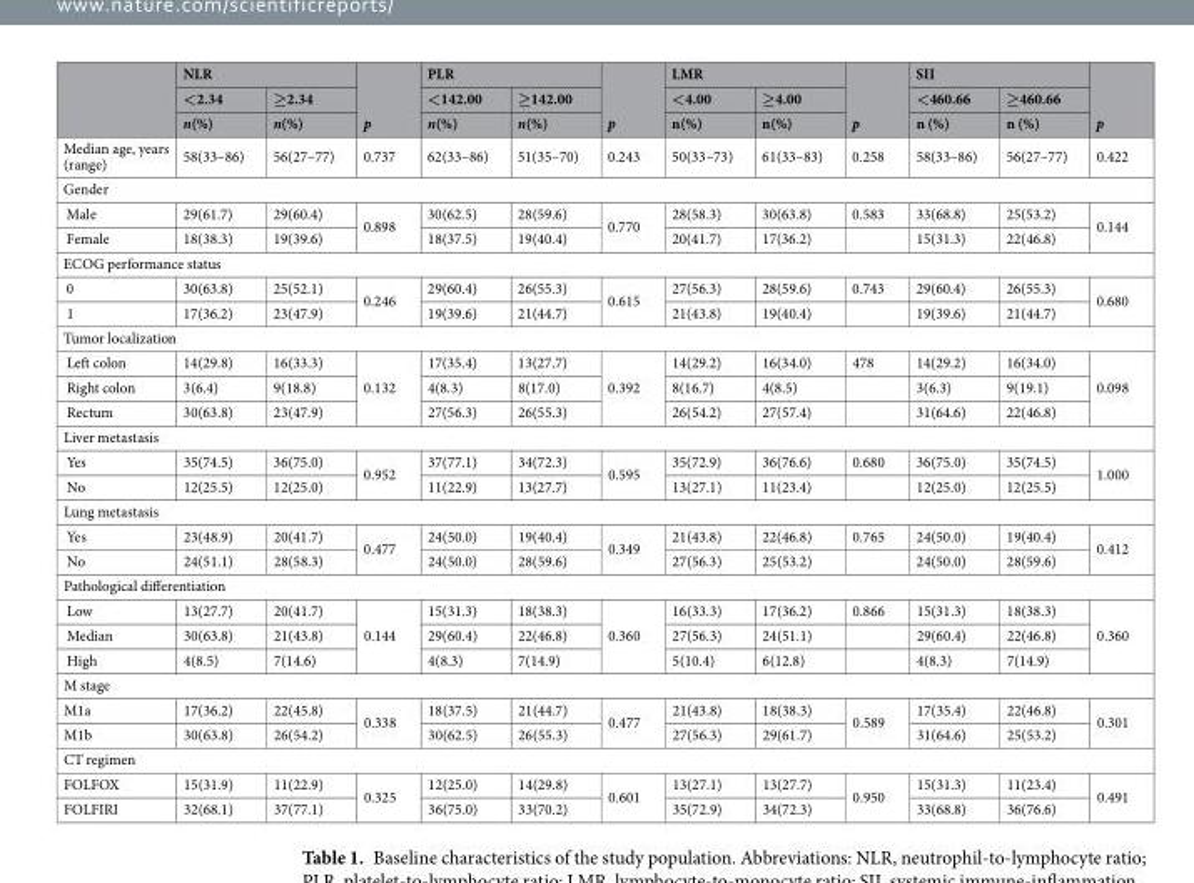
<table><thead><tr><td rowspan="3"></td><td colspan="2">NLR</td><td rowspan="3">p</td><td colspan="2">PLR</td><td rowspan="3">p</td><td colspan="2">LMR</td><td rowspan="3">p</td><td colspan="2">SII</td><td rowspan="3">p</td></tr><tr><td rowspan="2">&lt;2.34 n(%)</td><td rowspan="2">≥2.34 n(%)</td><td rowspan="2">&lt;142.00 n(%)</td><td rowspan="2">≥142.00 n(%)</td><td rowspan="2">&lt;4.00 n(%)</td><td rowspan="2">≥4.00 n(%)</td><td rowspan="2">&lt;460.66 n (%)</td><td rowspan="2">≥460.66 n (%)</td></tr><tr></tr></thead><tbody><tr><td>Median age, years (range)</td><td>58(33–86)</td><td>56(27–77)</td><td>0.737</td><td>62(33–86)</td><td>51(35–70)</td><td>0.243</td><td>50(33–73)</td><td>61(33–83)</td><td>0.258</td><td>58(33–86)</td><td>56(27–77)</td><td>0.422</td></tr><tr><td colspan="13">Gender</td></tr><tr><td>Male</td><td>29(61.7)</td><td>29(60.4)</td><td rowspan="2">0.898</td><td>30(62.5)</td><td>28(59.6)</td><td rowspan="2">0.770</td><td>28(58.3)</td><td>30(63.8)</td><td>0.583</td><td>33(68.8)</td><td>25(53.2)</td><td rowspan="2">0.144</td></tr><tr><td>Female</td><td>18(38.3)</td><td>19(39.6)</td><td>18(37.5)</td><td>19(40.4)</td><td>20(41.7)</td><td>17(36.2)</td><td></td><td>15(31.3)</td><td>22(46.8)</td></tr><tr><td colspan="13">ECOG performance status</td></tr><tr><td>0</td><td>30(63.8)</td><td>25(52.1)</td><td rowspan="2">0.246</td><td>29(60.4)</td><td>26(55.3)</td><td rowspan="2">0.615</td><td>27(56.3)</td><td>28(59.6)</td><td>0.743</td><td>29(60.4)</td><td>26(55.3)</td><td rowspan="2">0.680</td></tr><tr><td>1</td><td>17(36.2)</td><td>23(47.9)</td><td>19(39.6)</td><td>21(44.7)</td><td>21(43.8)</td><td>19(40.4)</td><td></td><td>19(39.6)</td><td>21(44.7)</td></tr><tr><td colspan="13">Tumor localization</td></tr><tr><td>Left colon</td><td>14(29.8)</td><td>16(33.3)</td><td rowspan="3">0.132</td><td>17(35.4)</td><td>13(27.7)</td><td rowspan="3">0.392</td><td>14(29.2)</td><td>16(34.0)</td><td>478</td><td>14(29.2)</td><td>16(34.0)</td><td rowspan="3">0.098</td></tr><tr><td>Right colon</td><td>3(6.4)</td><td>9(18.8)</td><td>4(8.3)</td><td>8(17.0)</td><td>8(16.7)</td><td>4(8.5)</td><td></td><td>3(6.3)</td><td>9(19.1)</td></tr><tr><td>Rectum</td><td>30(63.8)</td><td>23(47.9)</td><td>27(56.3)</td><td>26(55.3)</td><td>26(54.2)</td><td>27(57.4)</td><td></td><td>31(64.6)</td><td>22(46.8)</td></tr><tr><td colspan="13">Liver metastasis</td></tr><tr><td>Yes</td><td>35(74.5)</td><td>36(75.0)</td><td rowspan="2">0.952</td><td>37(77.1)</td><td>34(72.3)</td><td rowspan="2">0.595</td><td>35(72.9)</td><td>36(76.6)</td><td>0.680</td><td>36(75.0)</td><td>35(74.5)</td><td rowspan="2">1.000</td></tr><tr><td>No</td><td>12(25.5)</td><td>12(25.0)</td><td>11(22.9)</td><td>13(27.7)</td><td>13(27.1)</td><td>11(23.4)</td><td></td><td>12(25.0)</td><td>12(25.5)</td></tr><tr><td colspan="13">Lung metastasis</td></tr><tr><td>Yes</td><td>23(48.9)</td><td>20(41.7)</td><td rowspan="2">0.477</td><td>24(50.0)</td><td>19(40.4)</td><td rowspan="2">0.349</td><td>21(43.8)</td><td>22(46.8)</td><td>0.765</td><td>24(50.0)</td><td>19(40.4)</td><td rowspan="2">0.412</td></tr><tr><td>No</td><td>24(51.1)</td><td>28(58.3)</td><td>24(50.0)</td><td>28(59.6)</td><td>27(56.3)</td><td>25(53.2)</td><td></td><td>24(50.0)</td><td>28(59.6)</td></tr><tr><td colspan="13">Pathological differentiation</td></tr><tr><td>Low</td><td>13(27.7)</td><td>20(41.7)</td><td rowspan="3">0.144</td><td>15(31.3)</td><td>18(38.3)</td><td rowspan="3">0.360</td><td>16(33.3)</td><td>17(36.2)</td><td>0.866</td><td>15(31.3)</td><td>18(38.3)</td><td rowspan="3">0.360</td></tr><tr><td>Median</td><td>30(63.8)</td><td>21(43.8)</td><td>29(60.4)</td><td>22(46.8)</td><td>27(56.3)</td><td>24(51.1)</td><td></td><td>29(60.4)</td><td>22(46.8)</td></tr><tr><td>High</td><td>4(8.5)</td><td>7(14.6)</td><td>4(8.3)</td><td>7(14.9)</td><td>5(10.4)</td><td>6(12.8)</td><td></td><td>4(8.3)</td><td>7(14.9)</td></tr><tr><td colspan="13">M stage</td></tr><tr><td>M1a</td><td>17(36.2)</td><td>22(45.8)</td><td rowspan="2">0.338</td><td>18(37.5)</td><td>21(44.7)</td><td rowspan="2">0.477</td><td>21(43.8)</td><td>18(38.3)</td><td rowspan="2">0.589</td><td>17(35.4)</td><td>22(46.8)</td><td rowspan="2">0.301</td></tr><tr><td>M1b</td><td>30(63.8)</td><td>26(54.2)</td><td>30(62.5)</td><td>26(55.3)</td><td>27(56.3)</td><td>29(61.7)</td><td>31(64.6)</td><td>25(53.2)</td></tr><tr><td colspan="13">CT regimen</td></tr><tr><td>FOLFOX</td><td>15(31.9)</td><td>11(22.9)</td><td rowspan="2">0.325</td><td>12(25.0)</td><td>14(29.8)</td><td rowspan="2">0.601</td><td>13(27.1)</td><td>13(27.7)</td><td rowspan="2">0.950</td><td>15(31.3)</td><td>11(23.4)</td><td rowspan="2">0.491</td></tr><tr><td>FOLFIRI</td><td>32(68.1)</td><td>37(77.1)</td><td>36(75.0)</td><td>33(70.2)</td><td>35(72.9)</td><td>34(72.3)</td><td>33(68.8)</td><td>36(76.6)</td></tr></tbody></table>